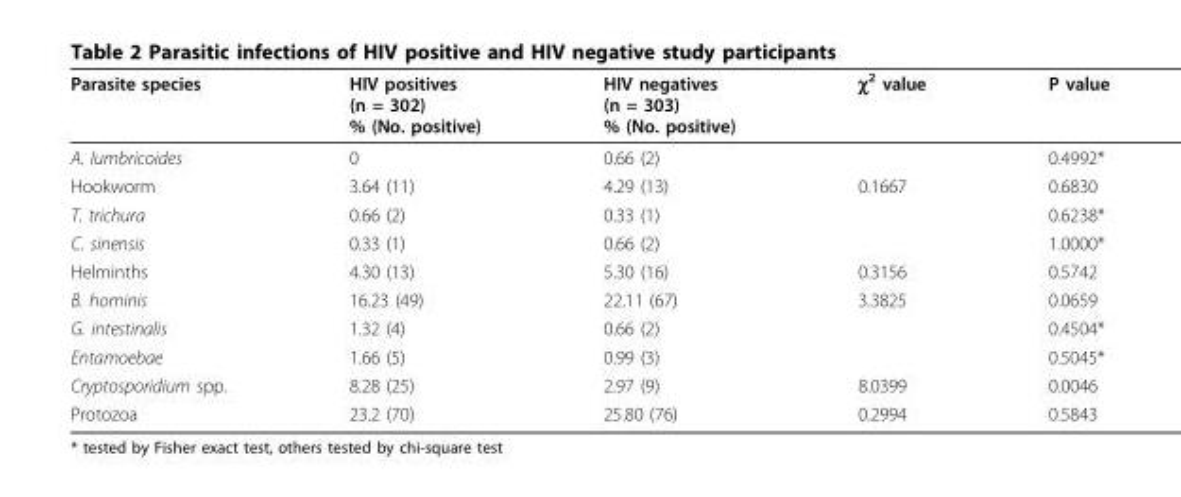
<table><thead><tr><td>Parasite species</td><td>HIV positives (n = 302) % (No. positive)</td><td>HIV negatives (n = 303) % (No. positive)</td><td>χ<sup>2</sup> value</td><td>P value</td></tr></thead><tbody><tr><td>A. lumbricoides</td><td>0</td><td>0.66 (2)</td><td></td><td>0.4992*</td></tr><tr><td>Hookworm</td><td>3.64 (11)</td><td>4.29 (13)</td><td>0.1667</td><td>0.6830</td></tr><tr><td>T. trichura</td><td>0.66 (2)</td><td>0.33 (1)</td><td></td><td>0.6238*</td></tr><tr><td>C. sinensis</td><td>0.33 (1)</td><td>0.66 (2)</td><td></td><td>1.0000*</td></tr><tr><td>Helminths</td><td>4.30 (13)</td><td>5.30 (16)</td><td>0.3156</td><td>0.5742</td></tr><tr><td>B. hominis</td><td>16.23 (49)</td><td>22.11 (67)</td><td>3.3825</td><td>0.0659</td></tr><tr><td>G. intestinalis</td><td>1.32 (4)</td><td>0.66 (2)</td><td></td><td>0.4504*</td></tr><tr><td>Entamoebae</td><td>1.66 (5)</td><td>0.99 (3)</td><td></td><td>0.5045*</td></tr><tr><td>Cryptosporidium spp.</td><td>8.28 (25)</td><td>2.97 (9)</td><td>8.0399</td><td>0.0046</td></tr><tr><td>Protozoa</td><td>23.2 (70)</td><td>25.80 (76)</td><td>0.2994</td><td>0.5843</td></tr></tbody></table>